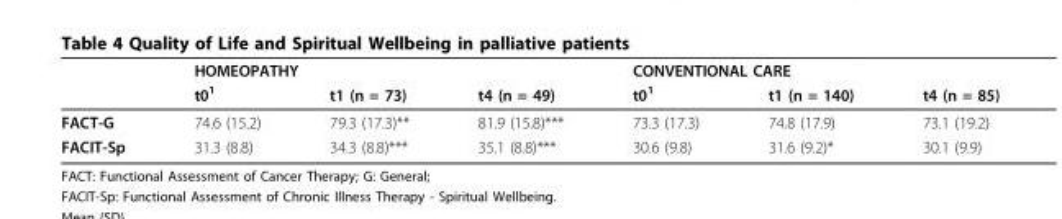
<table><thead><tr><td rowspan="2"></td><td colspan="3">HOMEOPATHY</td><td colspan="3">CONVENTIONAL CARE</td></tr><tr><td>t0<sup>1</sup></td><td>t1 (n = 73)</td><td>t4 (n = 49)</td><td>t0<sup>1</sup></td><td>t1 (n = 140)</td><td>t4 (n = 85)</td></tr></thead><tbody><tr><td>FACT-G</td><td>74.6 (15.2)</td><td>79.3 (17.3)**</td><td>81.9 (15.8)***</td><td>73.3 (17.3)</td><td>74.8 (17.9)</td><td>73.1 (19.2)</td></tr><tr><td>FACIT-Sp</td><td>31.3 (8.8)</td><td>34.3 (8.8)***</td><td>35.1 (8.8)***</td><td>30.6 (9.8)</td><td>31.6 (9.2)*</td><td>30.1 (9.9)</td></tr></tbody></table>